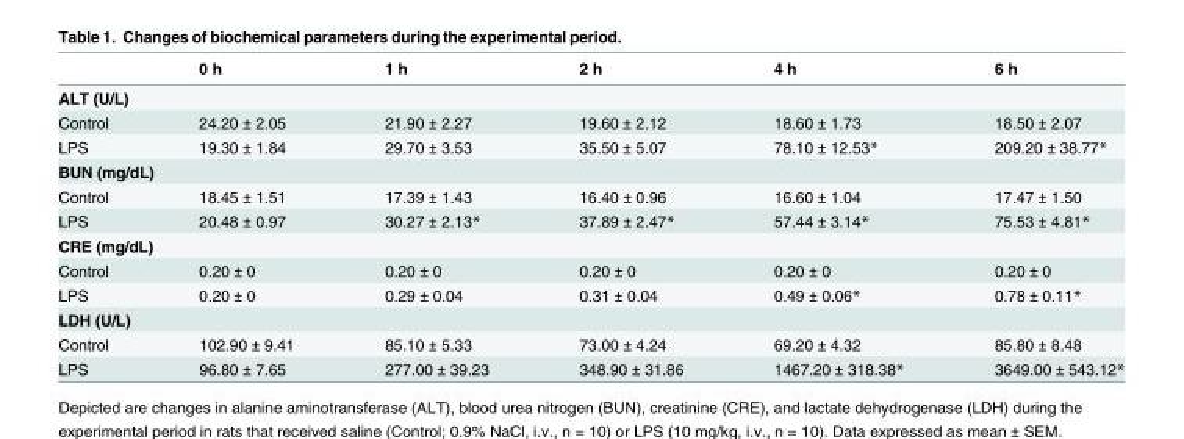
<table><thead><tr><td></td><td>0 h</td><td>1 h</td><td>2 h</td><td>4 h</td><td>6 h</td></tr></thead><tbody><tr><td colspan="6">ALT (U/L)</td></tr><tr><td>Control</td><td>24.20 ± 2.05</td><td>21.90 ± 2.27</td><td>19.60 ± 2.12</td><td>18.60 ± 1.73</td><td>18.50 ± 2.07</td></tr><tr><td>LPS</td><td>19.30 ± 1.84</td><td>29.70 ± 3.53</td><td>35.50 ± 5.07</td><td>78.10 ± 12.53*</td><td>209.20 ± 38.77*</td></tr><tr><td colspan="6">BUN (mg/dL)</td></tr><tr><td>Control</td><td>18.45 ± 1.51</td><td>17.39 ± 1.43</td><td>16.40 ± 0.96</td><td>16.60 ± 1.04</td><td>17.47 ± 1.50</td></tr><tr><td>LPS</td><td>20.48 ± 0.97</td><td>30.27 ± 2.13*</td><td>37.89 ± 2.47*</td><td>57.44 ± 3.14*</td><td>75.53 ± 4.81*</td></tr><tr><td colspan="6">CRE (mg/dL)</td></tr><tr><td>Control</td><td>0.20 ± 0</td><td>0.20 ± 0</td><td>0.20 ± 0</td><td>0.20 ± 0</td><td>0.20 ± 0</td></tr><tr><td>LPS</td><td>0.20 ± 0</td><td>0.29 ± 0.04</td><td>0.31 ± 0.04</td><td>0.49 ± 0.06*</td><td>0.78 ± 0.11*</td></tr><tr><td colspan="6">LDH (U/L)</td></tr><tr><td>Control</td><td>102.90 ± 9.41</td><td>85.10 ± 5.33</td><td>73.00 ± 4.24</td><td>69.20 ± 4.32</td><td>85.80 ± 8.48</td></tr><tr><td>LPS</td><td>96.80 ± 7.65</td><td>277.00 ± 39.23</td><td>348.90 ± 31.86</td><td>1467.20 ± 318.38*</td><td>3649.00 ± 543.12*</td></tr></tbody></table>